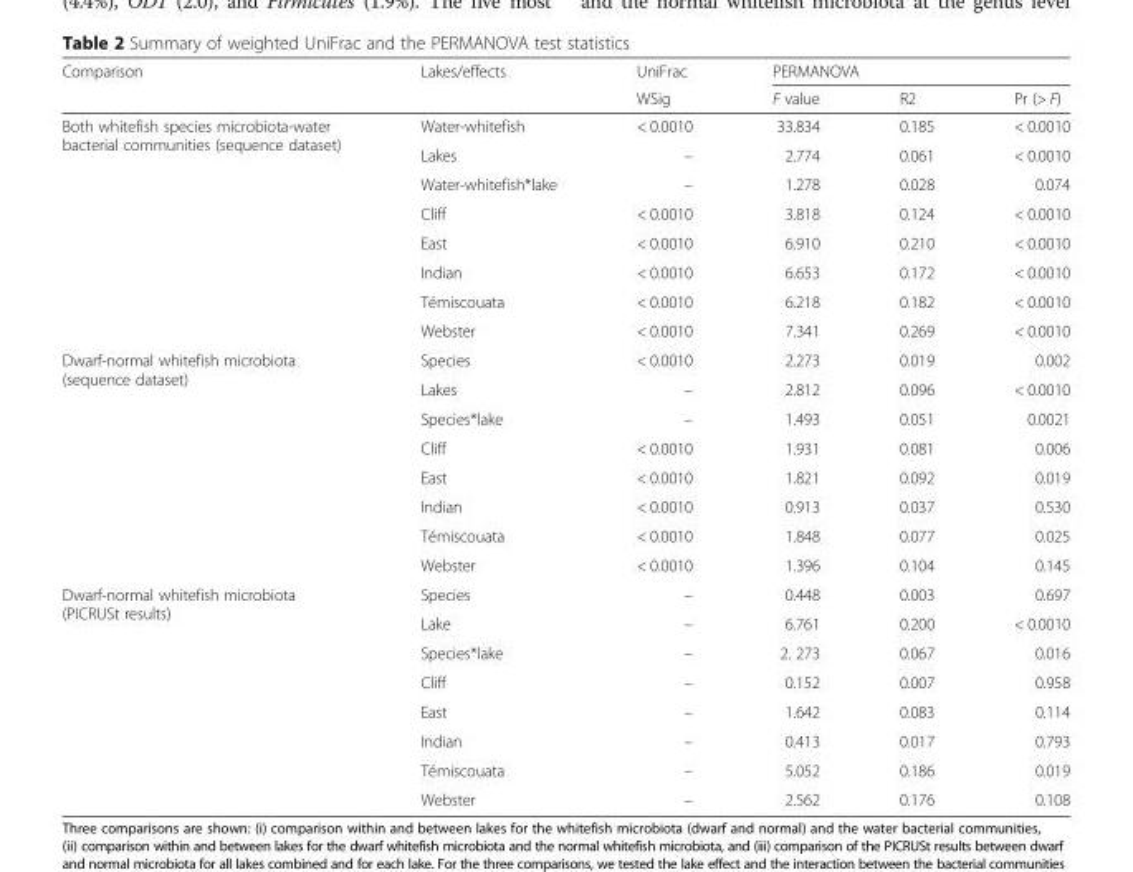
<table><thead><tr><td rowspan="2">Comparison</td><td rowspan="2">Lakes/effects</td><td rowspan="2">UniFrac WSig</td><td colspan="3">PERMANOVA</td></tr><tr><td>F value</td><td>R2</td><td>Pr (&gt; F)</td></tr></thead><tbody><tr><td rowspan="8">Both whitefish species microbiota-water bacterial communities (sequence dataset)</td><td>Water-whitefish</td><td>&lt; 0.0010</td><td>33.834</td><td>0.185</td><td>&lt; 0.0010</td></tr><tr><td>Lakes</td><td>–</td><td>2.774</td><td>0.061</td><td>&lt; 0.0010</td></tr><tr><td>Water-whitefish*lake</td><td>–</td><td>1.278</td><td>0.028</td><td>0.074</td></tr><tr><td>Cliff</td><td>&lt; 0.0010</td><td>3.818</td><td>0.124</td><td>&lt; 0.0010</td></tr><tr><td>East</td><td>&lt; 0.0010</td><td>6.910</td><td>0.210</td><td>&lt; 0.0010</td></tr><tr><td>Indian</td><td>&lt; 0.0010</td><td>6.653</td><td>0.172</td><td>&lt; 0.0010</td></tr><tr><td>Témiscouata</td><td>&lt; 0.0010</td><td>6.218</td><td>0.182</td><td>&lt; 0.0010</td></tr><tr><td>Webster</td><td>&lt; 0.0010</td><td>7.341</td><td>0.269</td><td>&lt; 0.0010</td></tr><tr><td rowspan="8">Dwarf-normal whitefish microbiota (sequence dataset)</td><td>Species</td><td>&lt; 0.0010</td><td>2.273</td><td>0.019</td><td>0.002</td></tr><tr><td>Lakes</td><td>–</td><td>2.812</td><td>0.096</td><td>&lt; 0.0010</td></tr><tr><td>Species*lake</td><td>–</td><td>1.493</td><td>0.051</td><td>0.0021</td></tr><tr><td>Cliff</td><td>&lt; 0.0010</td><td>1.931</td><td>0.081</td><td>0.006</td></tr><tr><td>East</td><td>&lt; 0.0010</td><td>1.821</td><td>0.092</td><td>0.019</td></tr><tr><td>Indian</td><td>&lt; 0.0010</td><td>0.913</td><td>0.037</td><td>0.530</td></tr><tr><td>Témiscouata</td><td>&lt; 0.0010</td><td>1.848</td><td>0.077</td><td>0.025</td></tr><tr><td>Webster</td><td>&lt; 0.0010</td><td>1.396</td><td>0.104</td><td>0.145</td></tr><tr><td rowspan="8">Dwarf-normal whitefish microbiota (PICRUSt results)</td><td>Species</td><td>–</td><td>0.448</td><td>0.003</td><td>0.697</td></tr><tr><td>Lake</td><td>–</td><td>6.761</td><td>0.200</td><td>&lt; 0.0010</td></tr><tr><td>Species*lake</td><td>–</td><td>2. 273</td><td>0.067</td><td>0.016</td></tr><tr><td>Cliff</td><td>–</td><td>0.152</td><td>0.007</td><td>0.958</td></tr><tr><td>East</td><td>–</td><td>1.642</td><td>0.083</td><td>0.114</td></tr><tr><td>Indian</td><td>–</td><td>0.413</td><td>0.017</td><td>0.793</td></tr><tr><td>Témiscouata</td><td>–</td><td>5.052</td><td>0.186</td><td>0.019</td></tr><tr><td>Webster</td><td>–</td><td>2.562</td><td>0.176</td><td>0.108</td></tr></tbody></table>